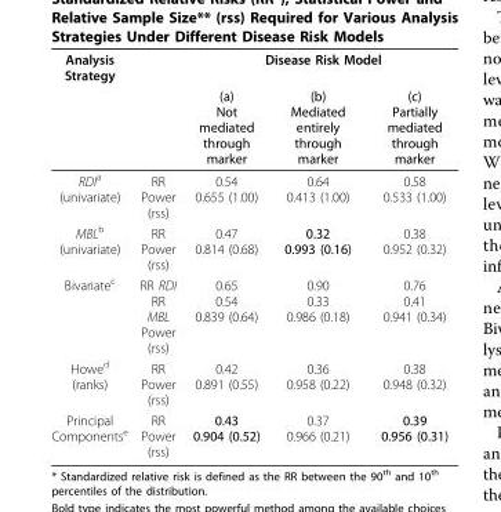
<table><thead><tr><td rowspan="2">Analysis Strategy</td><td rowspan="2"></td><td colspan="3">Disease Risk Model</td></tr><tr><td>(a) Not mediated through marker</td><td>(b) Mediated entirely through marker</td><td>(c) Partially mediated through marker</td></tr></thead><tbody><tr><td>RDI<sup>a</sup> (univariate)</td><td>RR Power (rss)</td><td>0.54 0.655 (1.00)</td><td>0.64 0.413 (1.00)</td><td>0.58 0.533 (1.00)</td></tr><tr><td>MBL<sup>b</sup> (univariate)</td><td>RR Power (rss)</td><td>0.47 0.814 (0.68)</td><td>0.32 0.993 (0.16)</td><td>0.38 0.952 (0.32)</td></tr><tr><td>Bivariate<sup>c</sup></td><td>RR RDI RR MBL Power (rss)</td><td>0.65 0.54 0.839 (0.64)</td><td>0.90 0.33 0.986 (0.18)</td><td>0.76 0.41 0.941 (0.34)</td></tr><tr><td>Howe<sup>d</sup> (ranks)</td><td>RR Power (rss)</td><td>0.42 0.891 (0.55)</td><td>0.36 0.958 (0.22)</td><td>0.38 0.948 (0.32)</td></tr><tr><td>Principal Components<sup>e</sup></td><td>RR Power (rss)</td><td>0.43 0.904 (0.52)</td><td>0.37 0.966 (0.21)</td><td>0.39 0.956 (0.31)</td></tr></tbody></table>